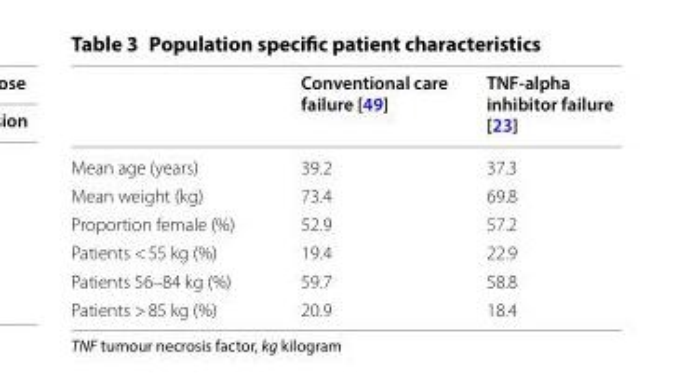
<table><thead><tr><td></td><td>Conventional care failure [49]</td><td>TNF-alpha inhibitor failure [23]</td></tr></thead><tbody><tr><td>Mean age (years)</td><td>39.2</td><td>37.3</td></tr><tr><td>Mean weight (kg)</td><td>73.4</td><td>69.8</td></tr><tr><td>Proportion female (%)</td><td>52.9</td><td>57.2</td></tr><tr><td>Patients &lt; 55 kg (%)</td><td>19.4</td><td>22.9</td></tr><tr><td>Patients 56–84 kg (%)</td><td>59.7</td><td>58.8</td></tr><tr><td>Patients &gt; 85 kg (%)</td><td>20.9</td><td>18.4</td></tr></tbody></table>